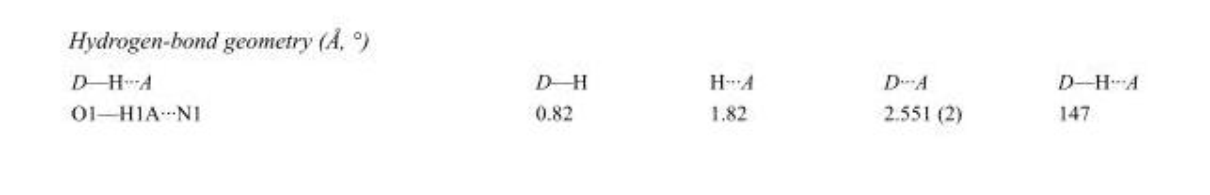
<table><tbody><tr><td>D—H···A</td><td>D—H</td><td>H···A</td><td>D···A</td><td>D—H···A</td></tr><tr><td>O1—H1A···N1</td><td>0.82</td><td>1.82</td><td>2.551 (2)</td><td>147</td></tr></tbody></table>